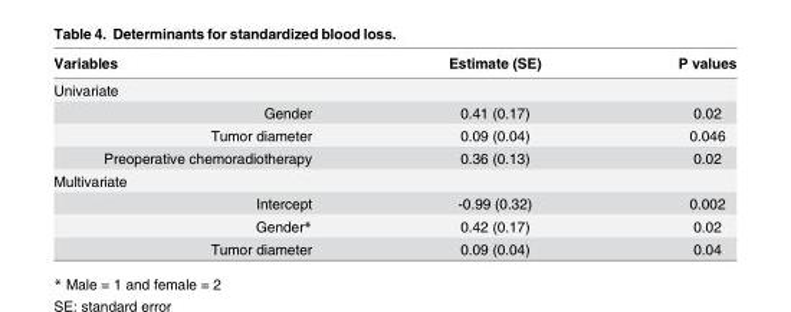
<table><thead><tr><td>Variables</td><td></td><td>Estimate (SE)</td><td>P values</td></tr></thead><tbody><tr><td colspan="4">Univariate</td></tr><tr><td></td><td>Gender</td><td>0.41 (0.17)</td><td>0.02</td></tr><tr><td colspan="2">Tumor diameter</td><td>0.09 (0.04)</td><td>0.046</td></tr><tr><td colspan="2">Preoperative chemoradiotherapy</td><td>0.36 (0.13)</td><td>0.02</td></tr><tr><td colspan="4">Multivariate</td></tr><tr><td colspan="2">Intercept</td><td>-0.99 (0.32)</td><td>0.002</td></tr><tr><td colspan="2">Gender*</td><td>0.42 (0.17)</td><td>0.02</td></tr><tr><td colspan="2">Tumor diameter</td><td>0.09 (0.04)</td><td>0.04</td></tr></tbody></table>